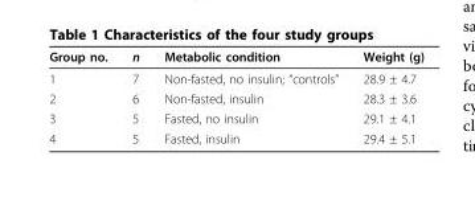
<table><thead><tr><td>Group no.</td><td>n</td><td>Metabolic condition</td><td>Weight (g)</td></tr></thead><tbody><tr><td>1</td><td>7</td><td>Non-fasted, no insulin; “controls”</td><td>28.9 ± 4.7</td></tr><tr><td>2</td><td>6</td><td>Non-fasted, insulin</td><td>28.3 ± 3.6</td></tr><tr><td>3</td><td>5</td><td>Fasted, no insulin</td><td>29.1 ± 4.1</td></tr><tr><td>4</td><td>5</td><td>Fasted, insulin</td><td>29.4 ± 5.1</td></tr></tbody></table>